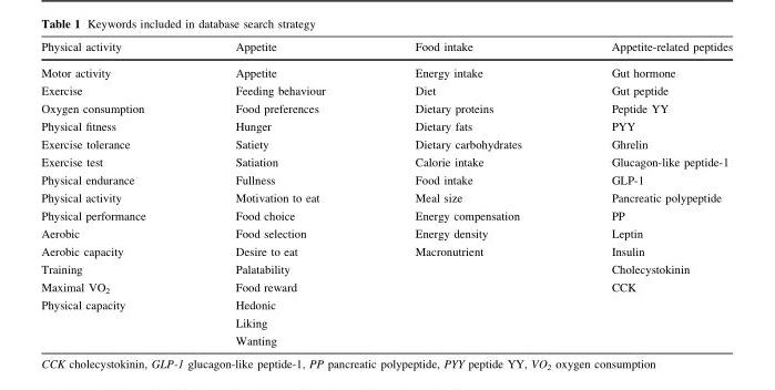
<table><thead><tr><td>Physical activity</td><td>Appetite</td><td>Food intake</td><td>Appetite-related peptides</td></tr></thead><tbody><tr><td>Motor activity</td><td>Appetite</td><td>Energy intake</td><td>Gut hormone</td></tr><tr><td>Exercise</td><td>Feeding behaviour</td><td>Diet</td><td>Gut peptide</td></tr><tr><td>Oxygen consumption</td><td>Food preferences</td><td>Dietary proteins</td><td>Peptide YY</td></tr><tr><td>Physical fitness</td><td>Hunger</td><td>Dietary fats</td><td>PYY</td></tr><tr><td>Exercise tolerance</td><td>Satiety</td><td>Dietary carbohydrates</td><td>Ghrelin</td></tr><tr><td>Exercise test</td><td>Satiation</td><td>Calorie intake</td><td>Glucagon-like peptide-1</td></tr><tr><td>Physical endurance</td><td>Fullness</td><td>Food intake</td><td>GLP-1</td></tr><tr><td>Physical activity</td><td>Motivation to eat</td><td>Meal size</td><td>Pancreatic polypeptide</td></tr><tr><td>Physical performance</td><td>Food choice</td><td>Energy compensation</td><td>PP</td></tr><tr><td>Aerobic</td><td>Food selection</td><td>Energy density</td><td>Leptin</td></tr><tr><td>Aerobic capacity</td><td>Desire to eat</td><td>Macronutrient</td><td>Insulin</td></tr><tr><td>Training</td><td>Palatability</td><td></td><td>Cholecystokinin</td></tr><tr><td>Maximal VO<sub>2</sub></td><td>Food reward</td><td></td><td>CCK</td></tr><tr><td rowspan="3">Physical capacity</td><td>Hedonic</td><td></td><td></td></tr><tr><td>Liking</td><td></td><td></td></tr><tr><td>Wanting</td><td></td><td></td></tr></tbody></table>